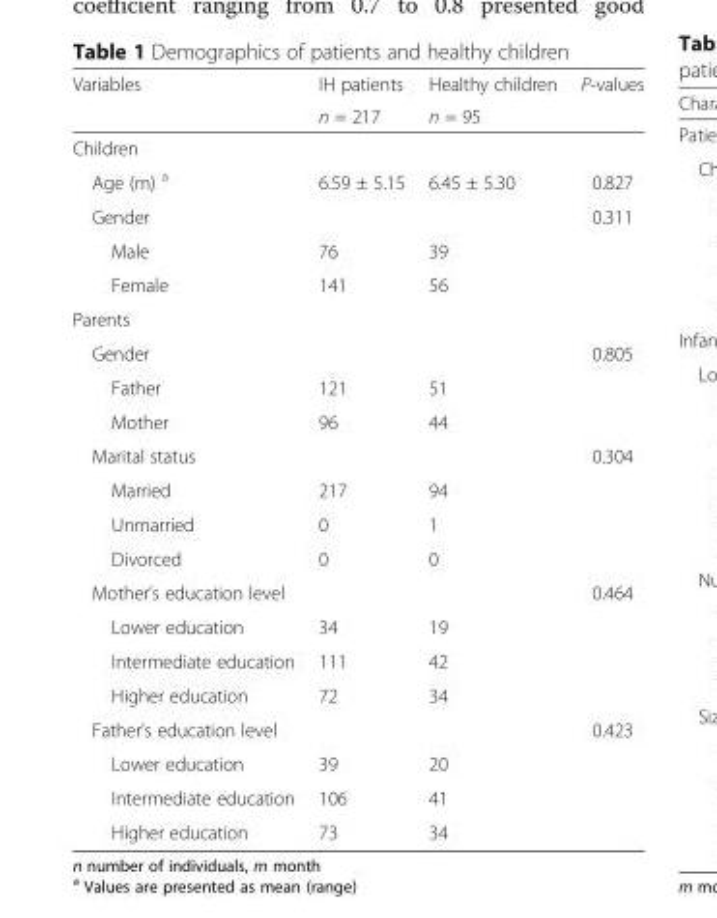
<table><thead><tr><td rowspan="2">Variables</td><td rowspan="2">IH patients n = 217</td><td rowspan="2">Healthy children n = 95</td><td rowspan="2">P-values</td></tr><tr></tr></thead><tbody><tr><td colspan="4">Children</td></tr><tr><td>Age (m) <sup>a</sup></td><td>6.59 ± 5.15</td><td>6.45 ± 5.30</td><td>0.827</td></tr><tr><td>Gender</td><td></td><td></td><td>0.311</td></tr><tr><td>Male</td><td>76</td><td>39</td><td></td></tr><tr><td>Female</td><td>141</td><td>56</td><td></td></tr><tr><td colspan="4">Parents</td></tr><tr><td>Gender</td><td></td><td></td><td>0.805</td></tr><tr><td>Father</td><td>121</td><td>51</td><td></td></tr><tr><td>Mother</td><td>96</td><td>44</td><td></td></tr><tr><td>Marital status</td><td></td><td></td><td>0.304</td></tr><tr><td>Married</td><td>217</td><td>94</td><td></td></tr><tr><td>Unmarried</td><td>0</td><td>1</td><td></td></tr><tr><td>Divorced</td><td>0</td><td>0</td><td></td></tr><tr><td>Mother’s education level</td><td></td><td></td><td>0.464</td></tr><tr><td>Lower education</td><td>34</td><td>19</td><td></td></tr><tr><td>Intermediate education</td><td>111</td><td>42</td><td></td></tr><tr><td>Higher education</td><td>72</td><td>34</td><td></td></tr><tr><td>Father’s education level</td><td></td><td></td><td>0.423</td></tr><tr><td>Lower education</td><td>39</td><td>20</td><td></td></tr><tr><td>Intermediate education</td><td>106</td><td>41</td><td></td></tr><tr><td>Higher education</td><td>73</td><td>34</td><td></td></tr></tbody></table>